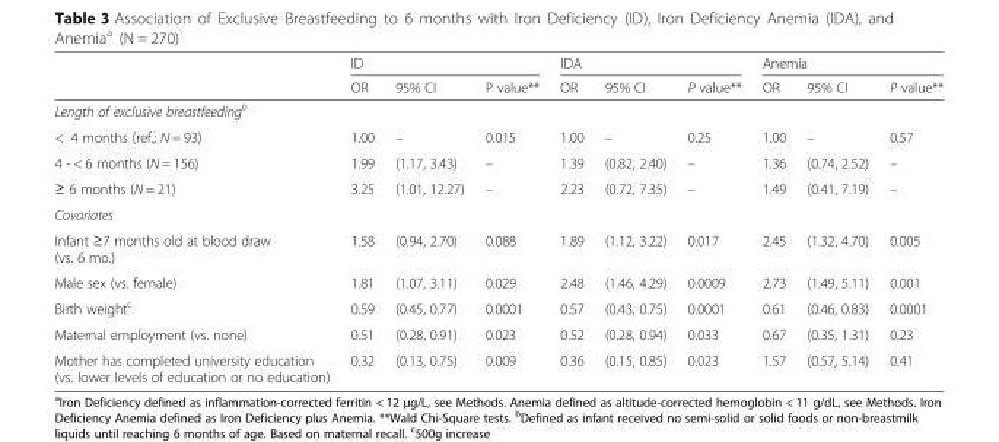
<table><thead><tr><td rowspan="2"></td><td colspan="3">ID</td><td colspan="3">IDA</td><td colspan="3">Anemia</td></tr><tr><td>OR</td><td>95% CI</td><td>P value**</td><td>OR</td><td>95% CI</td><td>P value**</td><td>OR</td><td>95% CI</td><td>P value**</td></tr></thead><tbody><tr><td colspan="10">Length of exclusive breastfeeding<sup>b</sup></td></tr><tr><td>&lt; 4 months (ref.; N = 93)</td><td>1.00</td><td>–</td><td>0.015</td><td>1.00</td><td>–</td><td>0.25</td><td>1.00</td><td>–</td><td>0.57</td></tr><tr><td>4 - &lt; 6 months (N = 156)</td><td>1.99</td><td>(1.17, 3.43)</td><td>–</td><td>1.39</td><td>(0.82, 2.40)</td><td>–</td><td>1.36</td><td>(0.74, 2.52)</td><td>–</td></tr><tr><td>≥ 6 months (N = 21)</td><td>3.25</td><td>(1.01, 12.27)</td><td>–</td><td>2.23</td><td>(0.72, 7.35)</td><td>–</td><td>1.49</td><td>(0.41, 7.19)</td><td>–</td></tr><tr><td colspan="10">Covariates</td></tr><tr><td>Infant ≥7 months old at blood draw (vs. 6 mo.)</td><td>1.58</td><td>(0.94, 2.70)</td><td>0.088</td><td>1.89</td><td>(1.12, 3.22)</td><td>0.017</td><td>2.45</td><td>(1.32, 4.70)</td><td>0.005</td></tr><tr><td>Male sex (vs. female)</td><td>1.81</td><td>(1.07, 3.11)</td><td>0.029</td><td>2.48</td><td>(1.46, 4.29)</td><td>0.0009</td><td>2.73</td><td>(1.49, 5.11)</td><td>0.001</td></tr><tr><td>Birth weight<sup>c</sup></td><td>0.59</td><td>(0.45, 0.77)</td><td>0.0001</td><td>0.57</td><td>(0.43, 0.75)</td><td>0.0001</td><td>0.61</td><td>(0.46, 0.83)</td><td>0.0001</td></tr><tr><td>Maternal employment (vs. none)</td><td>0.51</td><td>(0.28, 0.91)</td><td>0.023</td><td>0.52</td><td>(0.28, 0.94)</td><td>0.033</td><td>0.67</td><td>(0.35, 1.31)</td><td>0.23</td></tr><tr><td>Mother has completed university education (vs. lower levels of education or no education)</td><td>0.32</td><td>(0.13, 0.75)</td><td>0.009</td><td>0.36</td><td>(0.15, 0.85)</td><td>0.023</td><td>1.57</td><td>(0.57, 5.14)</td><td>0.41</td></tr></tbody></table>